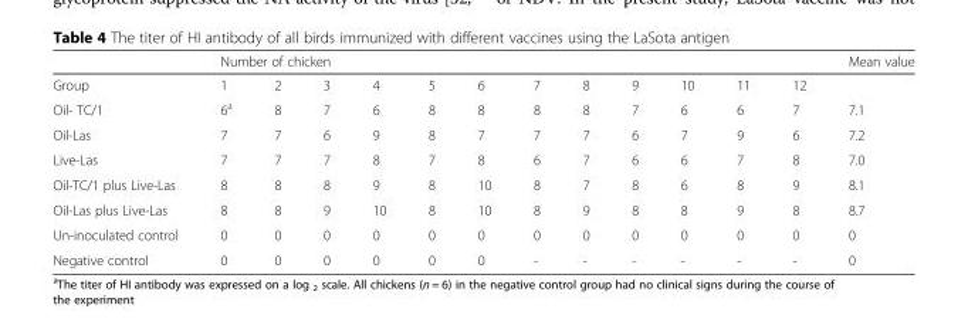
<table><thead><tr><td rowspan="2">Group</td><td colspan="12">Number of chicken</td><td rowspan="2">Mean value</td></tr><tr><td>1</td><td>2</td><td>3</td><td>4</td><td>5</td><td>6</td><td>7</td><td>8</td><td>9</td><td>10</td><td>11</td><td>12</td></tr></thead><tbody><tr><td>Oil- TC/1</td><td>6<sup>a</sup></td><td>8</td><td>7</td><td>6</td><td>8</td><td>8</td><td>8</td><td>8</td><td>7</td><td>6</td><td>6</td><td>7</td><td>7.1</td></tr><tr><td>Oil-Las</td><td>7</td><td>7</td><td>6</td><td>9</td><td>8</td><td>7</td><td>7</td><td>7</td><td>6</td><td>7</td><td>9</td><td>6</td><td>7.2</td></tr><tr><td>Live-Las</td><td>7</td><td>7</td><td>7</td><td>8</td><td>7</td><td>8</td><td>6</td><td>7</td><td>6</td><td>6</td><td>7</td><td>8</td><td>7.0</td></tr><tr><td>Oil-TC/1 plus Live-Las</td><td>8</td><td>8</td><td>8</td><td>9</td><td>8</td><td>10</td><td>8</td><td>7</td><td>8</td><td>6</td><td>8</td><td>9</td><td>8.1</td></tr><tr><td>Oil-Las plus Live-Las</td><td>8</td><td>8</td><td>9</td><td>10</td><td>8</td><td>10</td><td>8</td><td>9</td><td>8</td><td>8</td><td>9</td><td>8</td><td>8.7</td></tr><tr><td>Un-inoculated control</td><td>0</td><td>0</td><td>0</td><td>0</td><td>0</td><td>0</td><td>0</td><td>0</td><td>0</td><td>0</td><td>0</td><td>0</td><td>0</td></tr><tr><td>Negative control</td><td>0</td><td>0</td><td>0</td><td>0</td><td>0</td><td>0</td><td>-</td><td>-</td><td>-</td><td>-</td><td>-</td><td>-</td><td>0</td></tr></tbody></table>